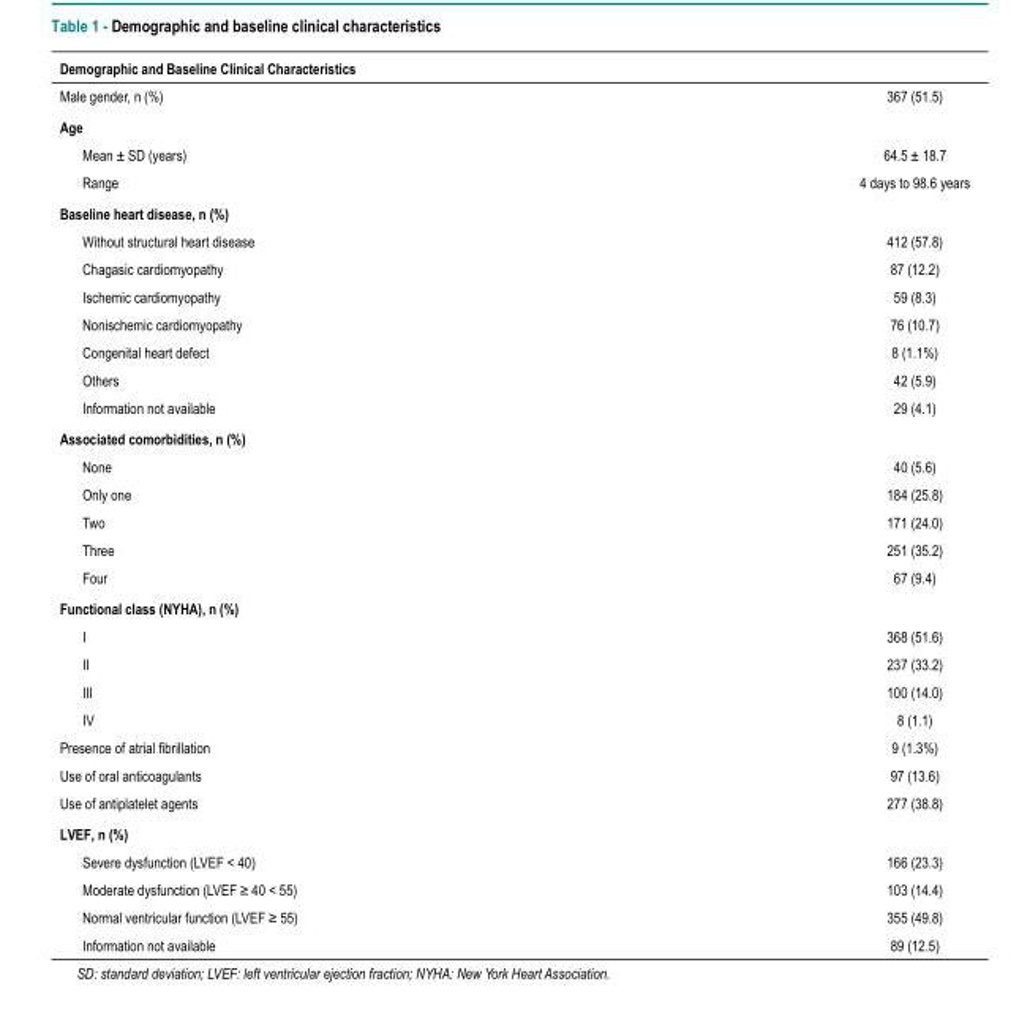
<table><thead><tr><td colspan="2">Demographic and Baseline Clinical Characteristics</td></tr><tr><td>Male gender, n (%)</td><td>367 (51.5)</td></tr></thead><tbody><tr><td colspan="2">Age</td></tr><tr><td>Mean ± SD (years)</td><td>64.5 ± 18.7</td></tr><tr><td>Range</td><td>4 days to 98.6 years</td></tr><tr><td colspan="2">Baseline heart disease, n (%)</td></tr><tr><td>Without structural heart disease</td><td>412 (57.8)</td></tr><tr><td>Chagasic cardiomyopathy</td><td>87 (12.2)</td></tr><tr><td>Ischemic cardiomyopathy</td><td>59 (8.3)</td></tr><tr><td>Nonischemic cardiomyopathy</td><td>76 (10.7)</td></tr><tr><td>Congenital heart defect</td><td>8 (1.1%)</td></tr><tr><td>Others</td><td>42 (5.9)</td></tr><tr><td>Information not available</td><td>29 (4.1)</td></tr><tr><td colspan="2">Associated comorbidities, n (%)</td></tr><tr><td>None</td><td>40 (5.6)</td></tr><tr><td>Only one</td><td>184 (25.8)</td></tr><tr><td>Two</td><td>171 (24.0)</td></tr><tr><td>Three</td><td>251 (35.2)</td></tr><tr><td>Four</td><td>67 (9.4)</td></tr><tr><td colspan="2">Functional class (NYHA), n (%)</td></tr><tr><td>I</td><td>368 (51.6)</td></tr><tr><td>II</td><td>237 (33.2)</td></tr><tr><td>III</td><td>100 (14.0)</td></tr><tr><td>IV</td><td>8 (1.1)</td></tr><tr><td>Presence of atrial fibrillation</td><td>9 (1.3%)</td></tr><tr><td>Use of oral anticoagulants</td><td>97 (13.6)</td></tr><tr><td>Use of antiplatelet agents</td><td>277 (38.8)</td></tr><tr><td colspan="2">LVEF, n (%)</td></tr><tr><td>Severe dysfunction (LVEF &lt; 40)</td><td>166 (23.3)</td></tr><tr><td>Moderate dysfunction (LVEF ≥ 40 &lt; 55)</td><td>103 (14.4)</td></tr><tr><td>Normal ventricular function (LVEF ≥ 55)</td><td>355 (49.8)</td></tr><tr><td>Information not available</td><td>89 (12.5)</td></tr></tbody></table>